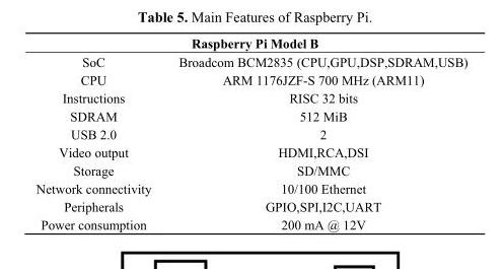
<table><thead><tr><td colspan="2">Raspberry Pi Model B</td></tr><tr><td>SoC</td><td>Broadcom BCM2835 (CPU,GPU,DSP,SDRAM,USB)</td></tr></thead><tbody><tr><td>CPU</td><td>ARM 1176JZF-S 700 MHz (ARM11)</td></tr><tr><td>Instructions</td><td>RISC 32 bits</td></tr><tr><td>SDRAM</td><td>512 MiB</td></tr><tr><td>USB 2.0</td><td>2</td></tr><tr><td>Video output</td><td>HDMI,RCA,DSI</td></tr><tr><td>Storage</td><td>SD/MMC</td></tr><tr><td>Network connectivity</td><td>10/100 Ethernet</td></tr><tr><td>Peripherals</td><td>GPIO,SPI,I2C,UART</td></tr><tr><td>Power consumption</td><td>200 mA @ 12V</td></tr></tbody></table>